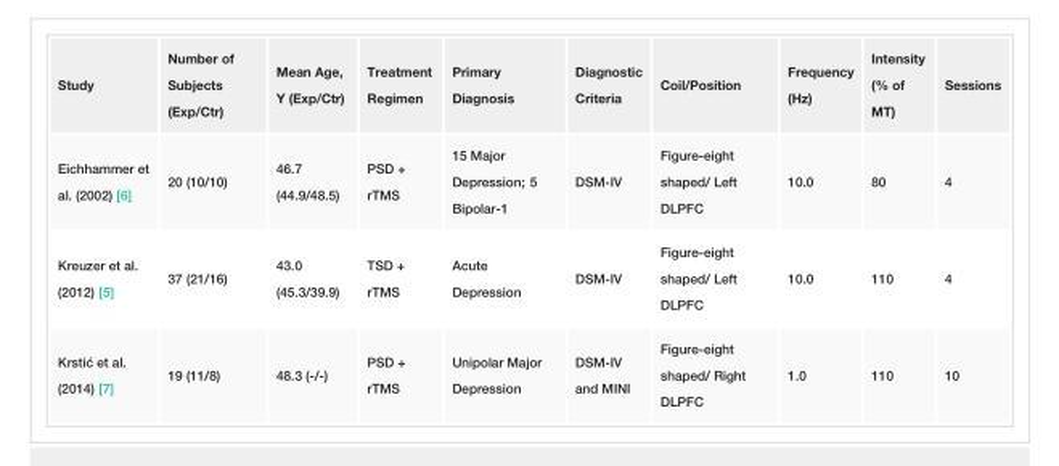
<table><tbody><tr><td>Study</td><td>Number of Subjects (Exp/Ctr)</td><td>Mean Age, Y (Exp/Ctr)</td><td>Treatment Regimen</td><td>Primary Diagnosis</td><td>Diagnostic Criteria</td><td>Coil/Position</td><td>Frequency (Hz)</td><td>Intensity (% of MT)</td><td>Sessions</td></tr><tr><td>Eichhammer et al. (2002) [6]</td><td>20 (10/10)</td><td>46.7 (44.9/48.5)</td><td>PSD + rTMS</td><td>15 Major Depression; 5 Bipolar-1</td><td>DSM-IV</td><td>Figure-eight shaped/ Left DLPFC</td><td>10.0</td><td>80</td><td>4</td></tr><tr><td>Kreuzer et al. (2012) [5]</td><td>37 (21/16)</td><td>43.0 (45.3/39.9)</td><td>TSD + rTMS</td><td>Acute Depression</td><td>DSM-IV</td><td>Figure-eight shaped/ Left DLPFC</td><td>10.0</td><td>110</td><td>4</td></tr><tr><td>Krstić et al. (2014) [7]</td><td>19 (11/8)</td><td>48.3 (-/-)</td><td>PSD + rTMS</td><td>Unipolar Major Depression</td><td>DSM-IV and MINI</td><td>Figure-eight shaped/ Right DLPFC</td><td>1.0</td><td>110</td><td>10</td></tr></tbody></table>